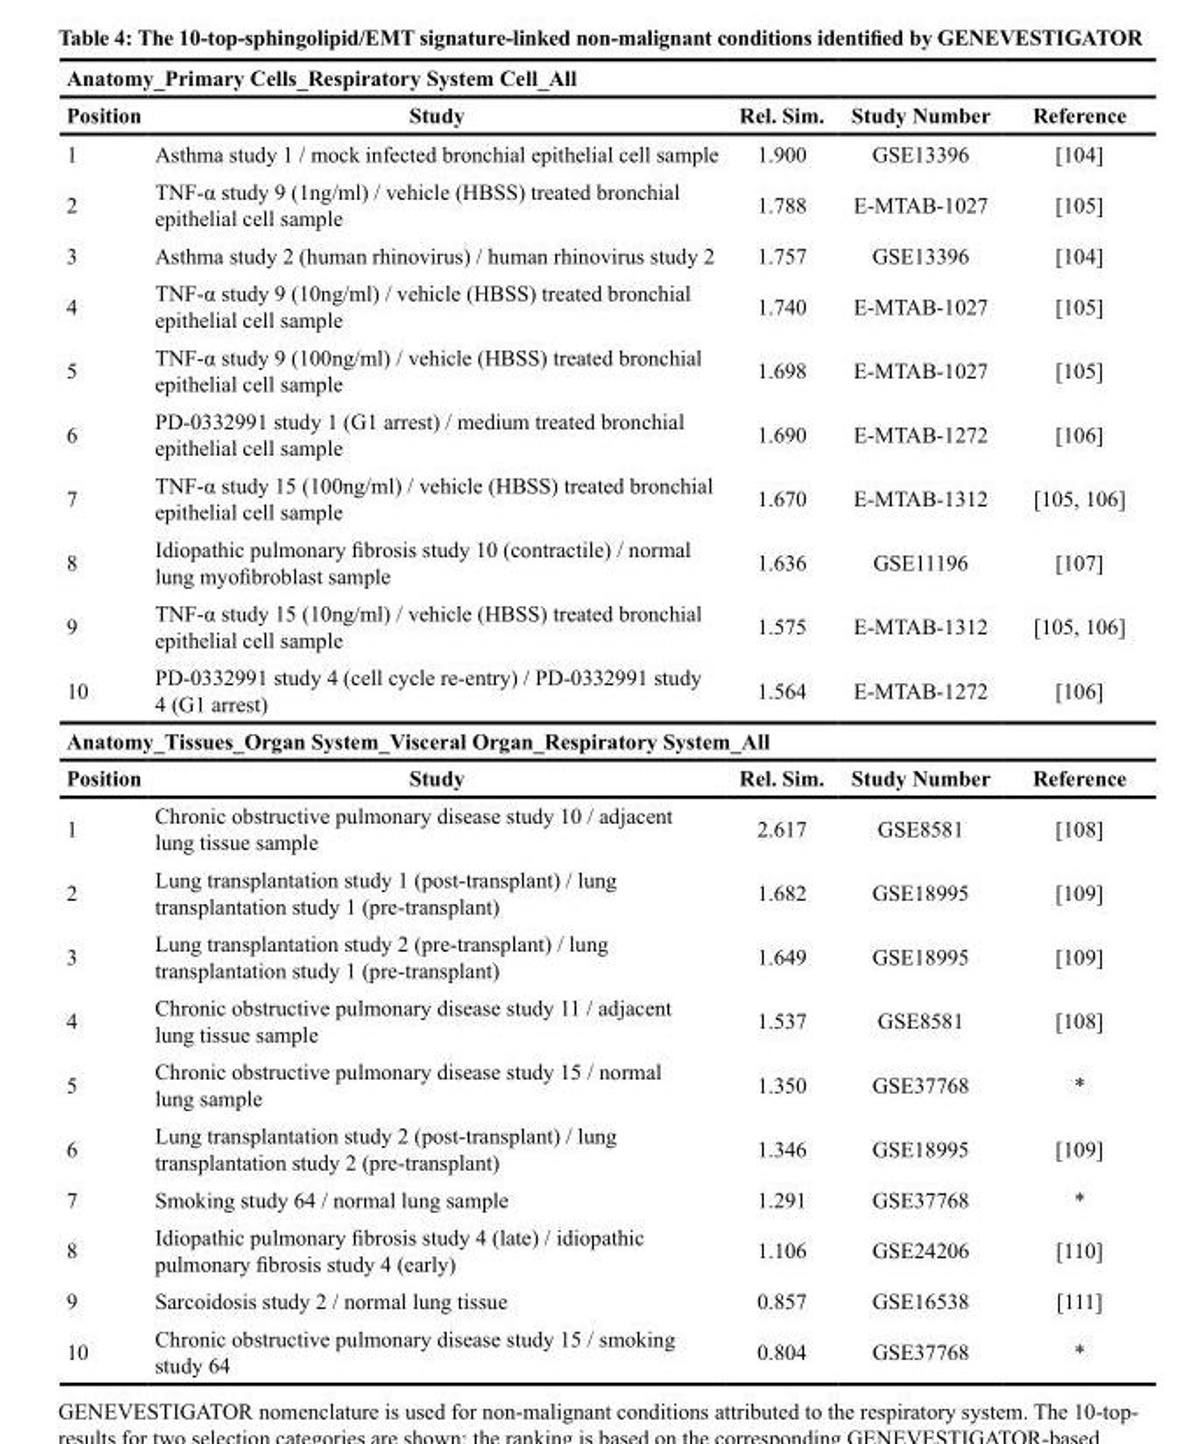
<table><thead><tr><td colspan="5">Anatomy_Primary Cells_Respiratory System Cell_All</td></tr><tr><td>Position</td><td>Study</td><td>Rel. Sim.</td><td>Study Number</td><td>Reference</td></tr></thead><tbody><tr><td>1</td><td>Asthma study 1 / mock infected bronchial epithelial cell sample</td><td>1.900</td><td>GSE13396</td><td>[104]</td></tr><tr><td>2</td><td>TNF-α study 9 (1ng/ml) / vehicle (HBSS) treated bronchial epithelial cell sample</td><td>1.788</td><td>E-MTAB-1027</td><td>[105]</td></tr><tr><td>3</td><td>Asthma study 2 (human rhinovirus) / human rhinovirus study 2</td><td>1.757</td><td>GSE13396</td><td>[104]</td></tr><tr><td>4</td><td>TNF-α study 9 (10ng/ml) / vehicle (HBSS) treated bronchial epithelial cell sample</td><td>1.740</td><td>E-MTAB-1027</td><td>[105]</td></tr><tr><td>5</td><td>TNF-α study 9 (100ng/ml) / vehicle (HBSS) treated bronchial epithelial cell sample</td><td>1.698</td><td>E-MTAB-1027</td><td>[105]</td></tr><tr><td>6</td><td>PD-0332991 study 1 (G1 arrest) / medium treated bronchial epithelial cell sample</td><td>1.690</td><td>E-MTAB-1272</td><td>[106]</td></tr><tr><td>7</td><td>TNF-α study 15 (100ng/ml) / vehicle (HBSS) treated bronchial epithelial cell sample</td><td>1.670</td><td>E-MTAB-1312</td><td>[105, 106]</td></tr><tr><td>8</td><td>Idiopathic pulmonary fibrosis study 10 (contractile) / normal lung myofibroblast sample</td><td>1.636</td><td>GSE11196</td><td>[107]</td></tr><tr><td>9</td><td>TNF-α study 15 (10ng/ml) / vehicle (HBSS) treated bronchial epithelial cell sample</td><td>1.575</td><td>E-MTAB-1312</td><td>[105, 106]</td></tr><tr><td>10</td><td>PD-0332991 study 4 (cell cycle re-entry) / PD-0332991 study 4 (G1 arrest)</td><td>1.564</td><td>E-MTAB-1272</td><td>[106]</td></tr><tr><td colspan="5">Anatomy_Tissues_Organ System_Visceral Organ_Respiratory System_All</td></tr><tr><td>Position</td><td>Study</td><td>Rel. Sim.</td><td>Study Number</td><td>Reference</td></tr><tr><td>1</td><td>Chronic obstructive pulmonary disease study 10 / adjacent lung tissue sample</td><td>2.617</td><td>GSE8581</td><td>[108]</td></tr><tr><td>2</td><td>Lung transplantation study 1 (post-transplant) / lung transplantation study 1 (pre-transplant)</td><td>1.682</td><td>GSE18995</td><td>[109]</td></tr><tr><td>3</td><td>Lung transplantation study 2 (pre-transplant) / lung transplantation study 1 (pre-transplant)</td><td>1.649</td><td>GSE18995</td><td>[109]</td></tr><tr><td>4</td><td>Chronic obstructive pulmonary disease study 11 / adjacent lung tissue sample</td><td>1.537</td><td>GSE8581</td><td>[108]</td></tr><tr><td>5</td><td>Chronic obstructive pulmonary disease study 15 / normal lung sample</td><td>1.350</td><td>GSE37768</td><td>*</td></tr><tr><td>6</td><td>Lung transplantation study 2 (post-transplant) / lung transplantation study 2 (pre-transplant)</td><td>1.346</td><td>GSE18995</td><td>[109]</td></tr><tr><td>7</td><td>Smoking study 64 / normal lung sample</td><td>1.291</td><td>GSE37768</td><td>*</td></tr><tr><td>8</td><td>Idiopathic pulmonary fibrosis study 4 (late) / idiopathic pulmonary fibrosis study 4 (early)</td><td>1.106</td><td>GSE24206</td><td>[110]</td></tr><tr><td>9</td><td>Sarcoidosis study 2 / normal lung tissue</td><td>0.857</td><td>GSE16538</td><td>[111]</td></tr><tr><td>10</td><td>Chronic obstructive pulmonary disease study 15 / smoking study 64</td><td>0.804</td><td>GSE37768</td><td>*</td></tr></tbody></table>